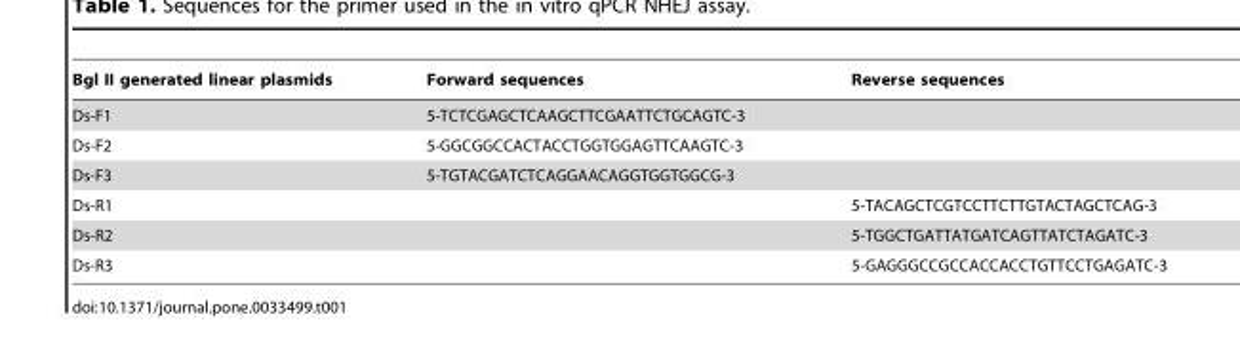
<table><thead><tr><td>Bgl II generated linear plasmids</td><td>Forward sequences</td><td>Reverse sequences</td></tr></thead><tbody><tr><td>Ds-F1</td><td>5-TCTCGAGCTCAAGCTTCGAATTCTGCAGTC-3</td><td></td></tr><tr><td>Ds-F2</td><td>5-GGCGGCCACTACCTGGTGGAGTTCAAGTC-3</td><td></td></tr><tr><td>Ds-F3</td><td>5-TGTACGATCTCAGGAACAGGTGGTGGCG-3</td><td></td></tr><tr><td>Ds-R1</td><td></td><td>5-TACAGCTCGTCCTTCTTGTACTAGCTCAG-3</td></tr><tr><td>Ds-R2</td><td></td><td>5-TGGCTGATTATGATCAGTTATCTAGATC-3</td></tr><tr><td>Ds-R3</td><td></td><td>5-GAGGGCCGCCACCACCTGTTCCTGAGATC-3</td></tr></tbody></table>